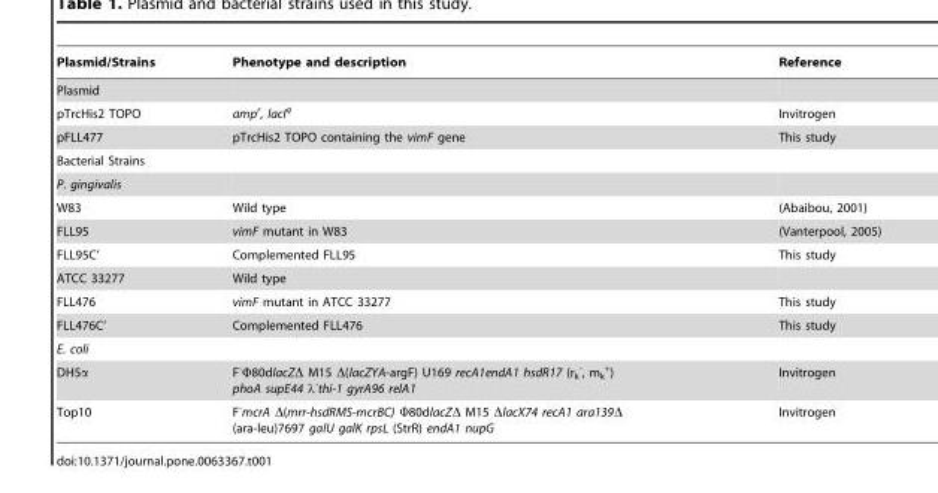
<table><thead><tr><td>Plasmid/Strains</td><td>Phenotype and description</td><td>Reference</td></tr></thead><tbody><tr><td colspan="3">Plasmid</td></tr><tr><td>pTrcHis2 TOPO</td><td>amp<sup>r</sup>, lacI<sup>q</sup></td><td>Invitrogen</td></tr><tr><td>pFLL477</td><td>pTrcHis2 TOPO containing the vimF gene</td><td>This study</td></tr><tr><td colspan="3">Bacterial Strains</td></tr><tr><td colspan="3">P. gingivalis</td></tr><tr><td>W83</td><td>Wild type</td><td>(Abaibou, 2001)</td></tr><tr><td>FLL95</td><td>vimF mutant in W83</td><td>(Vanterpool, 2005)</td></tr><tr><td>FLL95C’</td><td>Complemented FLL95</td><td>This study</td></tr><tr><td>ATCC 33277</td><td>Wild type</td><td></td></tr><tr><td>FLL476</td><td>vimF mutant in ATCC 33277</td><td>This study</td></tr><tr><td>FLL476C’</td><td>Complemented FLL476</td><td>This study</td></tr><tr><td colspan="3">E. coli</td></tr><tr><td>DH5α</td><td>F<sup>-</sup>Φ80dlacZΔ M15 Δ(lacZYA-argF) U169 recA1endA1 hsdR17 (r<sub>k</sub> <sup>-</sup>, m<sub>k</sub> <sup>+</sup>) phoA supE44 λ<sup>-</sup>thi-1 gyrA96 relA1</td><td>Invitrogen</td></tr><tr><td>Top10</td><td>F<sup>-</sup>mcrA Δ(mrr-hsdRMS-mcrBC) Φ80dlacZΔ M15 ΔlacX74 recA1 ara139Δ (ara-leu)7697 galU galK rpsL (StrR) endA1 nupG</td><td>Invitrogen</td></tr></tbody></table>